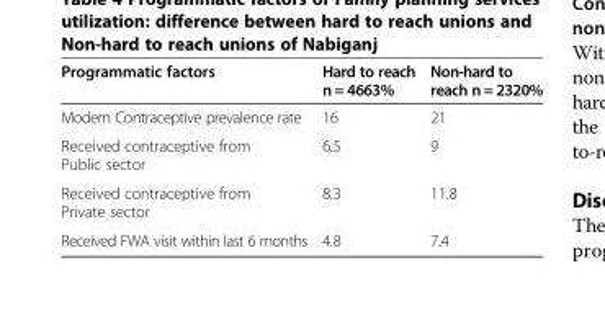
<table><thead><tr><td>Programmatic factors</td><td>Hard to reach n = 4663%</td><td>Non-hard to reach n = 2320%</td></tr></thead><tbody><tr><td>Modern Contraceptive prevalence rate</td><td>16</td><td>21</td></tr><tr><td>Received contraceptive from Public sector</td><td>6.5</td><td>9</td></tr><tr><td>Received contraceptive from Private sector</td><td>8.3</td><td>11.8</td></tr><tr><td>Received FWA visit within last 6 months</td><td>4.8</td><td>7.4</td></tr></tbody></table>